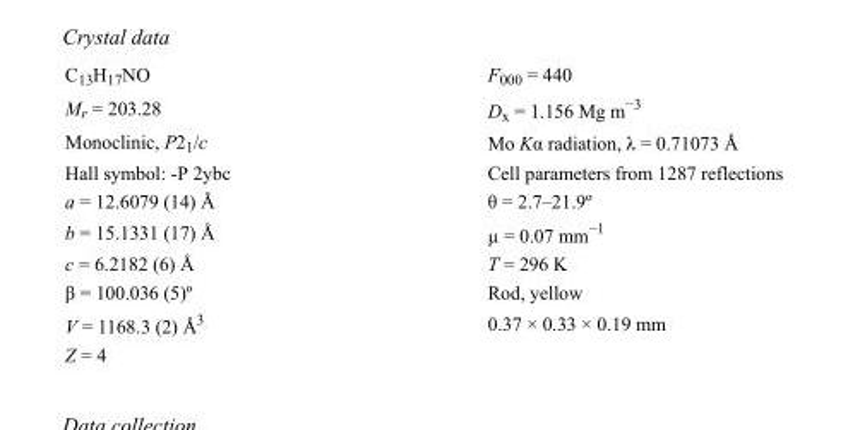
<table><tbody><tr><td>C<sub>13</sub>H<sub>17</sub>NO</td><td>F000 = 440</td></tr><tr><td>M<sub>r</sub> = 203.28</td><td>D<sub>x</sub> = 1.156 Mg m<sup>−3</sup></td></tr><tr><td>Monoclinic, P2<sub>1</sub>/c</td><td>Mo Kα radiation, λ = 0.71073 Å</td></tr><tr><td>Hall symbol: -P 2ybc</td><td>Cell parameters from 1287 reflections</td></tr><tr><td>a = 12.6079 (14) Å</td><td>θ = 2.7–21.9º</td></tr><tr><td>b = 15.1331 (17) Å</td><td>µ = 0.07 mm<sup>−1</sup></td></tr><tr><td>c = 6.2182 (6) Å</td><td>T = 296 K</td></tr><tr><td>β = 100.036 (5)º</td><td>Rod, yellow</td></tr><tr><td>V = 1168.3 (2) Å<sup>3</sup></td><td>0.37 × 0.33 × 0.19 mm</td></tr><tr><td>Z = 4</td><td></td></tr></tbody></table>